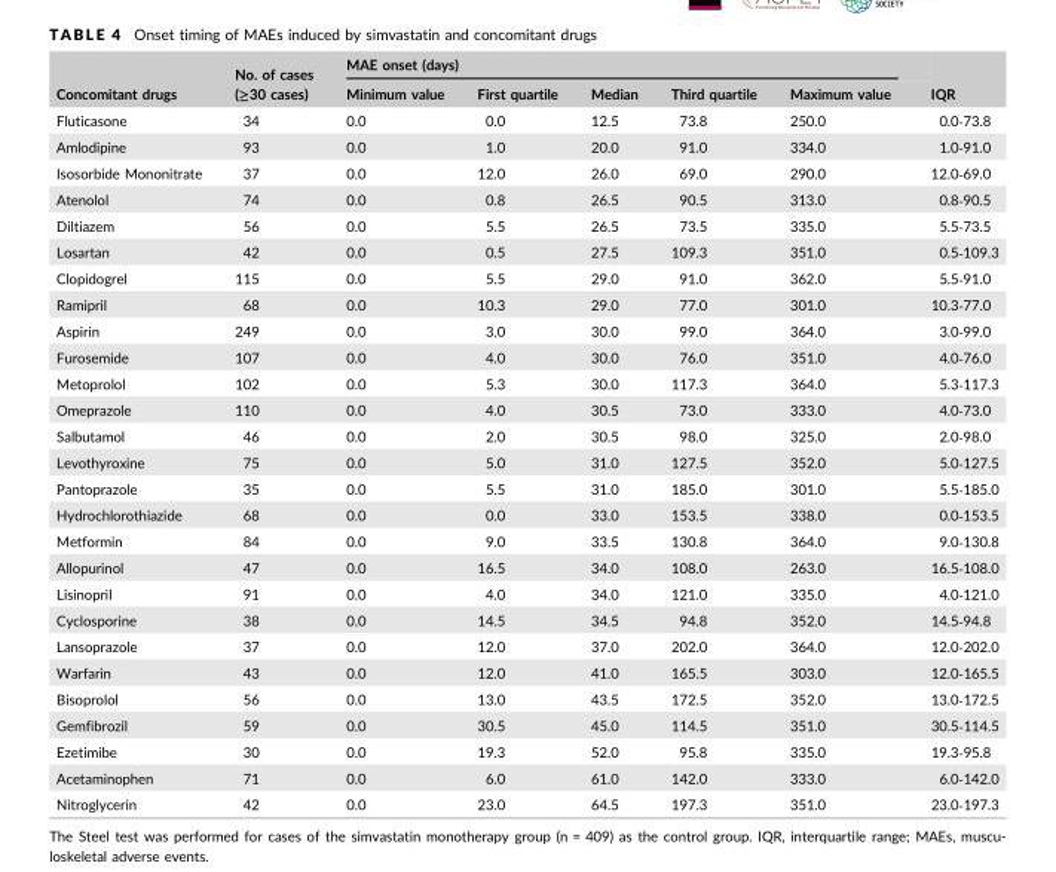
<table><thead><tr><td rowspan="2">Concomitant drugs</td><td rowspan="2">No. of cases (≥30 cases)</td><td colspan="5">MAE onset (days)</td><td rowspan="2">IQR</td></tr><tr><td>Minimum value</td><td>First quartile</td><td>Median</td><td>Third quartile</td><td>Maximum value</td></tr></thead><tbody><tr><td>Fluticasone</td><td>34</td><td>0.0</td><td>0.0</td><td>12.5</td><td>73.8</td><td>250.0</td><td>0.0‐73.8</td></tr><tr><td>Amlodipine</td><td>93</td><td>0.0</td><td>1.0</td><td>20.0</td><td>91.0</td><td>334.0</td><td>1.0‐91.0</td></tr><tr><td>Isosorbide Mononitrate</td><td>37</td><td>0.0</td><td>12.0</td><td>26.0</td><td>69.0</td><td>290.0</td><td>12.0‐69.0</td></tr><tr><td>Atenolol</td><td>74</td><td>0.0</td><td>0.8</td><td>26.5</td><td>90.5</td><td>313.0</td><td>0.8‐90.5</td></tr><tr><td>Diltiazem</td><td>56</td><td>0.0</td><td>5.5</td><td>26.5</td><td>73.5</td><td>335.0</td><td>5.5‐73.5</td></tr><tr><td>Losartan</td><td>42</td><td>0.0</td><td>0.5</td><td>27.5</td><td>109.3</td><td>351.0</td><td>0.5‐109.3</td></tr><tr><td>Clopidogrel</td><td>115</td><td>0.0</td><td>5.5</td><td>29.0</td><td>91.0</td><td>362.0</td><td>5.5‐91.0</td></tr><tr><td>Ramipril</td><td>68</td><td>0.0</td><td>10.3</td><td>29.0</td><td>77.0</td><td>301.0</td><td>10.3‐77.0</td></tr><tr><td>Aspirin</td><td>249</td><td>0.0</td><td>3.0</td><td>30.0</td><td>99.0</td><td>364.0</td><td>3.0‐99.0</td></tr><tr><td>Furosemide</td><td>107</td><td>0.0</td><td>4.0</td><td>30.0</td><td>76.0</td><td>351.0</td><td>4.0‐76.0</td></tr><tr><td>Metoprolol</td><td>102</td><td>0.0</td><td>5.3</td><td>30.0</td><td>117.3</td><td>364.0</td><td>5.3‐117.3</td></tr><tr><td>Omeprazole</td><td>110</td><td>0.0</td><td>4.0</td><td>30.5</td><td>73.0</td><td>333.0</td><td>4.0‐73.0</td></tr><tr><td>Salbutamol</td><td>46</td><td>0.0</td><td>2.0</td><td>30.5</td><td>98.0</td><td>325.0</td><td>2.0‐98.0</td></tr><tr><td>Levothyroxine</td><td>75</td><td>0.0</td><td>5.0</td><td>31.0</td><td>127.5</td><td>352.0</td><td>5.0‐127.5</td></tr><tr><td>Pantoprazole</td><td>35</td><td>0.0</td><td>5.5</td><td>31.0</td><td>185.0</td><td>301.0</td><td>5.5‐185.0</td></tr><tr><td>Hydrochlorothiazide</td><td>68</td><td>0.0</td><td>0.0</td><td>33.0</td><td>153.5</td><td>338.0</td><td>0.0‐153.5</td></tr><tr><td>Metformin</td><td>84</td><td>0.0</td><td>9.0</td><td>33.5</td><td>130.8</td><td>364.0</td><td>9.0‐130.8</td></tr><tr><td>Allopurinol</td><td>47</td><td>0.0</td><td>16.5</td><td>34.0</td><td>108.0</td><td>263.0</td><td>16.5‐108.0</td></tr><tr><td>Lisinopril</td><td>91</td><td>0.0</td><td>4.0</td><td>34.0</td><td>121.0</td><td>335.0</td><td>4.0‐121.0</td></tr><tr><td>Cyclosporine</td><td>38</td><td>0.0</td><td>14.5</td><td>34.5</td><td>94.8</td><td>352.0</td><td>14.5‐94.8</td></tr><tr><td>Lansoprazole</td><td>37</td><td>0.0</td><td>12.0</td><td>37.0</td><td>202.0</td><td>364.0</td><td>12.0‐202.0</td></tr><tr><td>Warfarin</td><td>43</td><td>0.0</td><td>12.0</td><td>41.0</td><td>165.5</td><td>303.0</td><td>12.0‐165.5</td></tr><tr><td>Bisoprolol</td><td>56</td><td>0.0</td><td>13.0</td><td>43.5</td><td>172.5</td><td>352.0</td><td>13.0‐172.5</td></tr><tr><td>Gemfibrozil</td><td>59</td><td>0.0</td><td>30.5</td><td>45.0</td><td>114.5</td><td>351.0</td><td>30.5‐114.5</td></tr><tr><td>Ezetimibe</td><td>30</td><td>0.0</td><td>19.3</td><td>52.0</td><td>95.8</td><td>335.0</td><td>19.3‐95.8</td></tr><tr><td>Acetaminophen</td><td>71</td><td>0.0</td><td>6.0</td><td>61.0</td><td>142.0</td><td>333.0</td><td>6.0‐142.0</td></tr><tr><td>Nitroglycerin</td><td>42</td><td>0.0</td><td>23.0</td><td>64.5</td><td>197.3</td><td>351.0</td><td>23.0‐197.3</td></tr></tbody></table>